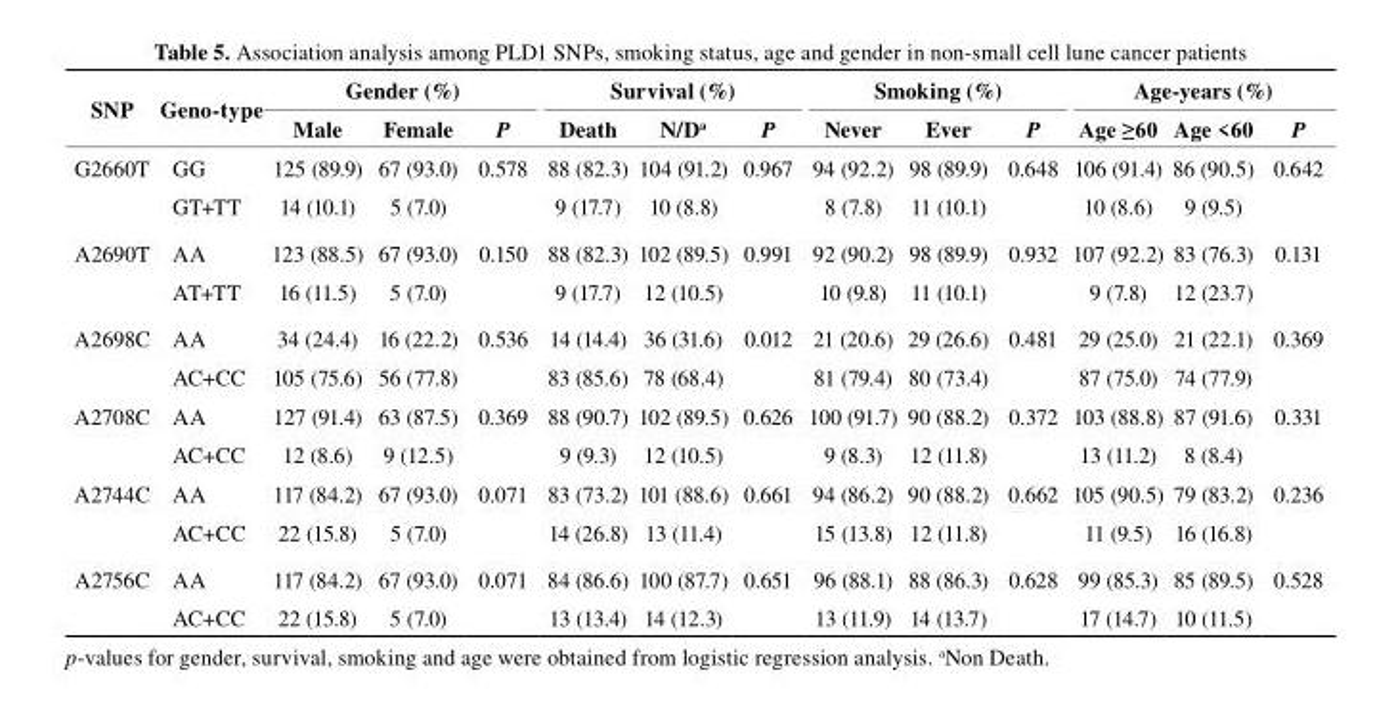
<table><thead><tr><td rowspan="2">sNP</td><td rowspan="2">Geno-type</td><td colspan="3">Gender (%)</td><td colspan="3">survival (%)</td><td colspan="3">smoking (%)</td><td colspan="3">Age-years (%)</td></tr><tr><td>Male</td><td>Female</td><td>P</td><td>Death</td><td>N/D<sup>a</sup></td><td>P</td><td>Never</td><td>Ever</td><td>P</td><td>Age ≥60</td><td>Age &lt;60</td><td>P</td></tr></thead><tbody><tr><td rowspan="2">G2660T</td><td>GG</td><td>125 (89.9)</td><td>67 (93.0)</td><td>0.578</td><td>88 (82.3)</td><td>104 (91.2)</td><td>0.967</td><td>94 (92.2)</td><td>98 (89.9)</td><td>0.648</td><td>106 (91.4)</td><td>86 (90.5)</td><td>0.642</td></tr><tr><td>GT+TT</td><td>14 (10.1)</td><td>5 (7.0)</td><td></td><td>9 (17.7)</td><td>10 (8.8)</td><td></td><td>8 (7.8)</td><td>11 (10.1)</td><td></td><td>10 (8.6)</td><td>9 (9.5)</td><td></td></tr><tr><td rowspan="2">A2690T</td><td>AA</td><td>123 (88.5)</td><td>67 (93.0)</td><td>0.150</td><td>88 (82.3)</td><td>102 (89.5)</td><td>0.991</td><td>92 (90.2)</td><td>98 (89.9)</td><td>0.932</td><td>107 (92.2)</td><td>83 (76.3)</td><td>0.131</td></tr><tr><td>AT+TT</td><td>16 (11.5)</td><td>5 (7.0)</td><td></td><td>9 (17.7)</td><td>12 (10.5)</td><td></td><td>10 (9.8)</td><td>11 (10.1)</td><td></td><td>9 (7.8)</td><td>12 (23.7)</td><td></td></tr><tr><td rowspan="2">A2698C</td><td>AA</td><td>34 (24.4)</td><td>16 (22.2)</td><td>0.536</td><td>14 (14.4)</td><td>36 (31.6)</td><td>0.012</td><td>21 (20.6)</td><td>29 (26.6)</td><td>0.481</td><td>29 (25.0)</td><td>21 (22.1)</td><td>0.369</td></tr><tr><td>AC+CC</td><td>105 (75.6)</td><td>56 (77.8)</td><td></td><td>83 (85.6)</td><td>78 (68.4)</td><td></td><td>81 (79.4)</td><td>80 (73.4)</td><td></td><td>87 (75.0)</td><td>74 (77.9)</td><td></td></tr><tr><td rowspan="2">A2708C</td><td>AA</td><td>127 (91.4)</td><td>63 (87.5)</td><td>0.369</td><td>88 (90.7)</td><td>102 (89.5)</td><td>0.626</td><td>100 (91.7)</td><td>90 (88.2)</td><td>0.372</td><td>103 (88.8)</td><td>87 (91.6)</td><td>0.331</td></tr><tr><td>AC+CC</td><td>12 (8.6)</td><td>9 (12.5)</td><td></td><td>9 (9.3)</td><td>12 (10.5)</td><td></td><td>9 (8.3)</td><td>12 (11.8)</td><td></td><td>13 (11.2)</td><td>8 (8.4)</td><td></td></tr><tr><td rowspan="2">A2744C</td><td>AA</td><td>117 (84.2)</td><td>67 (93.0)</td><td>0.071</td><td>83 (73.2)</td><td>101 (88.6)</td><td>0.661</td><td>94 (86.2)</td><td>90 (88.2)</td><td>0.662</td><td>105 (90.5)</td><td>79 (83.2)</td><td>0.236</td></tr><tr><td>AC+CC</td><td>22 (15.8)</td><td>5 (7.0)</td><td></td><td>14 (26.8)</td><td>13 (11.4)</td><td></td><td>15 (13.8)</td><td>12 (11.8)</td><td></td><td>11 (9.5)</td><td>16 (16.8)</td><td></td></tr><tr><td rowspan="2">A2756C</td><td>AA</td><td>117 (84.2)</td><td>67 (93.0)</td><td>0.071</td><td>84 (86.6)</td><td>100 (87.7)</td><td>0.651</td><td>96 (88.1)</td><td>88 (86.3)</td><td>0.628</td><td>99 (85.3)</td><td>85 (89.5)</td><td>0.528</td></tr><tr><td>AC+CC</td><td>22 (15.8)</td><td>5 (7.0)</td><td></td><td>13 (13.4)</td><td>14 (12.3)</td><td></td><td>13 (11.9)</td><td>14 (13.7)</td><td></td><td>17 (14.7)</td><td>10 (11.5)</td><td></td></tr></tbody></table>